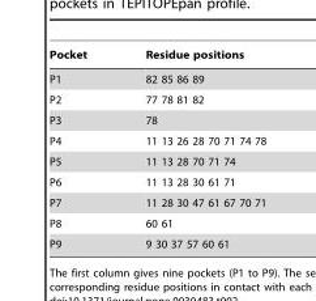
<table><thead><tr><td>Pocket</td><td>Residue positions</td></tr></thead><tbody><tr><td>P1</td><td>82 85 86 89</td></tr><tr><td>P2</td><td>77 78 81 82</td></tr><tr><td>P3</td><td>78</td></tr><tr><td>P4</td><td>11 13 26 28 70 71 74 78</td></tr><tr><td>P5</td><td>11 13 28 70 71 74</td></tr><tr><td>P6</td><td>11 13 28 30 61 71</td></tr><tr><td>P7</td><td>11 28 30 47 61 67 70 71</td></tr><tr><td>P8</td><td>60 61</td></tr><tr><td>P9</td><td>9 30 37 57 60 61</td></tr></tbody></table>